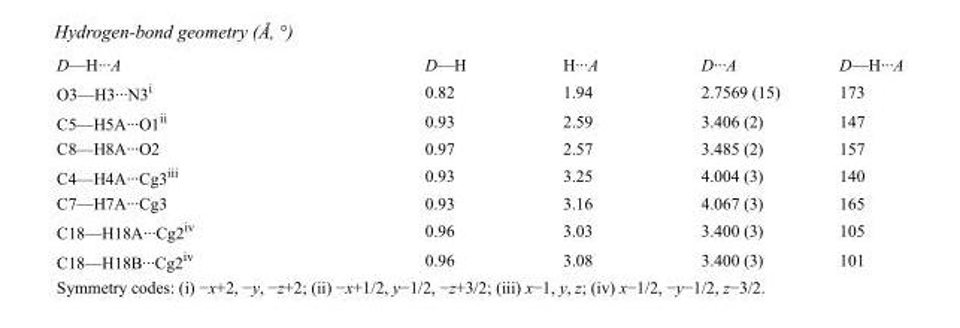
<table><tbody><tr><td>D—H···A</td><td>D—H</td><td>H···A</td><td>D···A</td><td>D—H···A</td></tr><tr><td>O3—H3···N3<sup>i</sup></td><td>0.82</td><td>1.94</td><td>2.7569 (15)</td><td>173</td></tr><tr><td>C5—H5A···O1<sup>ii</sup></td><td>0.93</td><td>2.59</td><td>3.406 (2)</td><td>147</td></tr><tr><td>C8—H8A···O2</td><td>0.97</td><td>2.57</td><td>3.485 (2)</td><td>157</td></tr><tr><td>C4—H4A···Cg3<sup>iii</sup></td><td>0.93</td><td>3.25</td><td>4.004 (3)</td><td>140</td></tr><tr><td>C7—H7A···Cg3</td><td>0.93</td><td>3.16</td><td>4.067 (3)</td><td>165</td></tr><tr><td>C18—H18A···Cg2<sup>iv</sup></td><td>0.96</td><td>3.03</td><td>3.400 (3)</td><td>105</td></tr><tr><td>C18—H18B···Cg2<sup>iv</sup></td><td>0.96</td><td>3.08</td><td>3.400 (3)</td><td>101</td></tr></tbody></table>